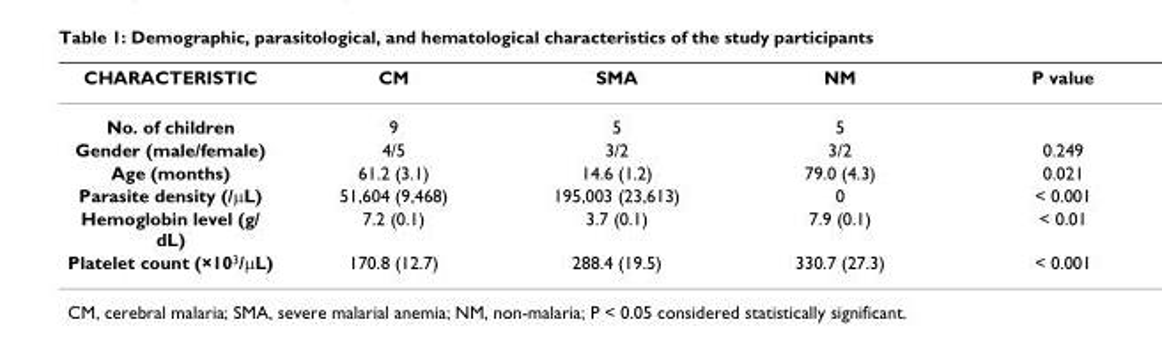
<table><thead><tr><td>CHARACTERISTIC</td><td>CM</td><td>SMA</td><td>NM</td><td>P value</td></tr></thead><tbody><tr><td>No. of children</td><td>9</td><td>5</td><td>5</td><td></td></tr><tr><td>Gender (male/female)</td><td>4/5</td><td>3/2</td><td>3/2</td><td>0.249</td></tr><tr><td>Age (months)</td><td>61.2 (3.1)</td><td>14.6 (1.2)</td><td>79.0 (4.3)</td><td>0.021</td></tr><tr><td>Parasite density (/µL)</td><td>51,604 (9,468)</td><td>195,003 (23,613)</td><td>0</td><td>&lt; 0.001</td></tr><tr><td>Hemoglobin level (g/ dL)</td><td>7.2 (0.1)</td><td>3.7 (0.1)</td><td>7.9 (0.1)</td><td>&lt; 0.01</td></tr><tr><td>Platelet count (×10<sup>3</sup>/µL)</td><td>170.8 (12.7)</td><td>288.4 (19.5)</td><td>330.7 (27.3)</td><td>&lt; 0.001</td></tr></tbody></table>